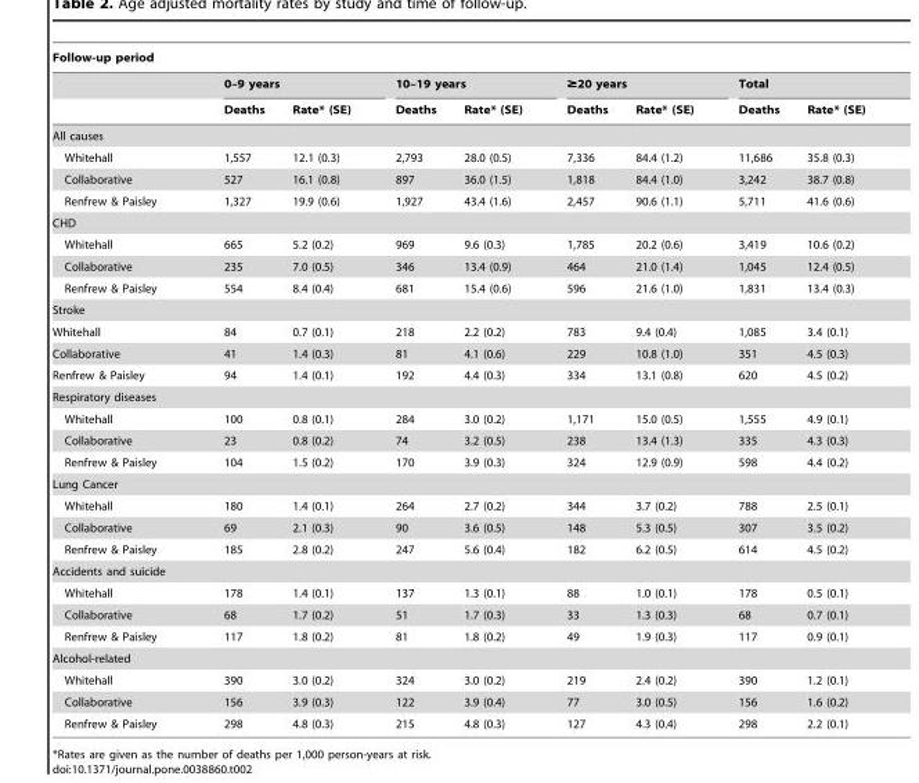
<table><thead><tr><td colspan="9">Follow-up period</td></tr><tr><td rowspan="2"></td><td colspan="2">0–9 years</td><td colspan="2">10–19 years</td><td colspan="2">≥20 years</td><td colspan="2">Total</td></tr><tr><td>Deaths</td><td>Rate* (SE)</td><td>Deaths</td><td>Rate* (SE)</td><td>Deaths</td><td>Rate* (SE)</td><td>Deaths</td><td>Rate* (SE)</td></tr></thead><tbody><tr><td colspan="9">All causes</td></tr><tr><td>Whitehall</td><td>1,557</td><td>12.1 (0.3)</td><td>2,793</td><td>28.0 (0.5)</td><td>7,336</td><td>84.4 (1.2)</td><td>11,686</td><td>35.8 (0.3)</td></tr><tr><td>Collaborative</td><td>527</td><td>16.1 (0.8)</td><td>897</td><td>36.0 (1.5)</td><td>1,818</td><td>84.4 (1.0)</td><td>3,242</td><td>38.7 (0.8)</td></tr><tr><td>Renfrew &amp; Paisley</td><td>1,327</td><td>19.9 (0.6)</td><td>1,927</td><td>43.4 (1.6)</td><td>2,457</td><td>90.6 (1.1)</td><td>5,711</td><td>41.6 (0.6)</td></tr><tr><td colspan="9">CHD</td></tr><tr><td>Whitehall</td><td>665</td><td>5.2 (0.2)</td><td>969</td><td>9.6 (0.3)</td><td>1,785</td><td>20.2 (0.6)</td><td>3,419</td><td>10.6 (0.2)</td></tr><tr><td>Collaborative</td><td>235</td><td>7.0 (0.5)</td><td>346</td><td>13.4 (0.9)</td><td>464</td><td>21.0 (1.4)</td><td>1,045</td><td>12.4 (0.5)</td></tr><tr><td>Renfrew &amp; Paisley</td><td>554</td><td>8.4 (0.4)</td><td>681</td><td>15.4 (0.6)</td><td>596</td><td>21.6 (1.0)</td><td>1,831</td><td>13.4 (0.3)</td></tr><tr><td colspan="9">Stroke</td></tr><tr><td>Whitehall</td><td>84</td><td>0.7 (0.1)</td><td>218</td><td>2.2 (0.2)</td><td>783</td><td>9.4 (0.4)</td><td>1,085</td><td>3.4 (0.1)</td></tr><tr><td>Collaborative</td><td>41</td><td>1.4 (0.3)</td><td>81</td><td>4.1 (0.6)</td><td>229</td><td>10.8 (1.0)</td><td>351</td><td>4.5 (0.3)</td></tr><tr><td>Renfrew &amp; Paisley</td><td>94</td><td>1.4 (0.1)</td><td>192</td><td>4.4 (0.3)</td><td>334</td><td>13.1 (0.8)</td><td>620</td><td>4.5 (0.2)</td></tr><tr><td colspan="9">Respiratory diseases</td></tr><tr><td>Whitehall</td><td>100</td><td>0.8 (0.1)</td><td>284</td><td>3.0 (0.2)</td><td>1,171</td><td>15.0 (0.5)</td><td>1,555</td><td>4.9 (0.1)</td></tr><tr><td>Collaborative</td><td>23</td><td>0.8 (0.2)</td><td>74</td><td>3.2 (0.5)</td><td>238</td><td>13.4 (1.3)</td><td>335</td><td>4.3 (0.3)</td></tr><tr><td>Renfrew &amp; Paisley</td><td>104</td><td>1.5 (0.2)</td><td>170</td><td>3.9 (0.3)</td><td>324</td><td>12.9 (0.9)</td><td>598</td><td>4.4 (0.2)</td></tr><tr><td colspan="9">Lung Cancer</td></tr><tr><td>Whitehall</td><td>180</td><td>1.4 (0.1)</td><td>264</td><td>2.7 (0.2)</td><td>344</td><td>3.7 (0.2)</td><td>788</td><td>2.5 (0.1)</td></tr><tr><td>Collaborative</td><td>69</td><td>2.1 (0.3)</td><td>90</td><td>3.6 (0.5)</td><td>148</td><td>5.3 (0.5)</td><td>307</td><td>3.5 (0.2)</td></tr><tr><td>Renfrew &amp; Paisley</td><td>185</td><td>2.8 (0.2)</td><td>247</td><td>5.6 (0.4)</td><td>182</td><td>6.2 (0.5)</td><td>614</td><td>4.5 (0.2)</td></tr><tr><td colspan="9">Accidents and suicide</td></tr><tr><td>Whitehall</td><td>178</td><td>1.4 (0.1)</td><td>137</td><td>1.3 (0.1)</td><td>88</td><td>1.0 (0.1)</td><td>178</td><td>0.5 (0.1)</td></tr><tr><td>Collaborative</td><td>68</td><td>1.7 (0.2)</td><td>51</td><td>1.7 (0.3)</td><td>33</td><td>1.3 (0.3)</td><td>68</td><td>0.7 (0.1)</td></tr><tr><td>Renfrew &amp; Paisley</td><td>117</td><td>1.8 (0.2)</td><td>81</td><td>1.8 (0.2)</td><td>49</td><td>1.9 (0.3)</td><td>117</td><td>0.9 (0.1)</td></tr><tr><td colspan="9">Alcohol-related</td></tr><tr><td>Whitehall</td><td>390</td><td>3.0 (0.2)</td><td>324</td><td>3.0 (0.2)</td><td>219</td><td>2.4 (0.2)</td><td>390</td><td>1.2 (0.1)</td></tr><tr><td>Collaborative</td><td>156</td><td>3.9 (0.3)</td><td>122</td><td>3.9 (0.4)</td><td>77</td><td>3.0 (0.5)</td><td>156</td><td>1.6 (0.2)</td></tr><tr><td>Renfrew &amp; Paisley</td><td>298</td><td>4.8 (0.3)</td><td>215</td><td>4.8 (0.3)</td><td>127</td><td>4.3 (0.4)</td><td>298</td><td>2.2 (0.1)</td></tr></tbody></table>